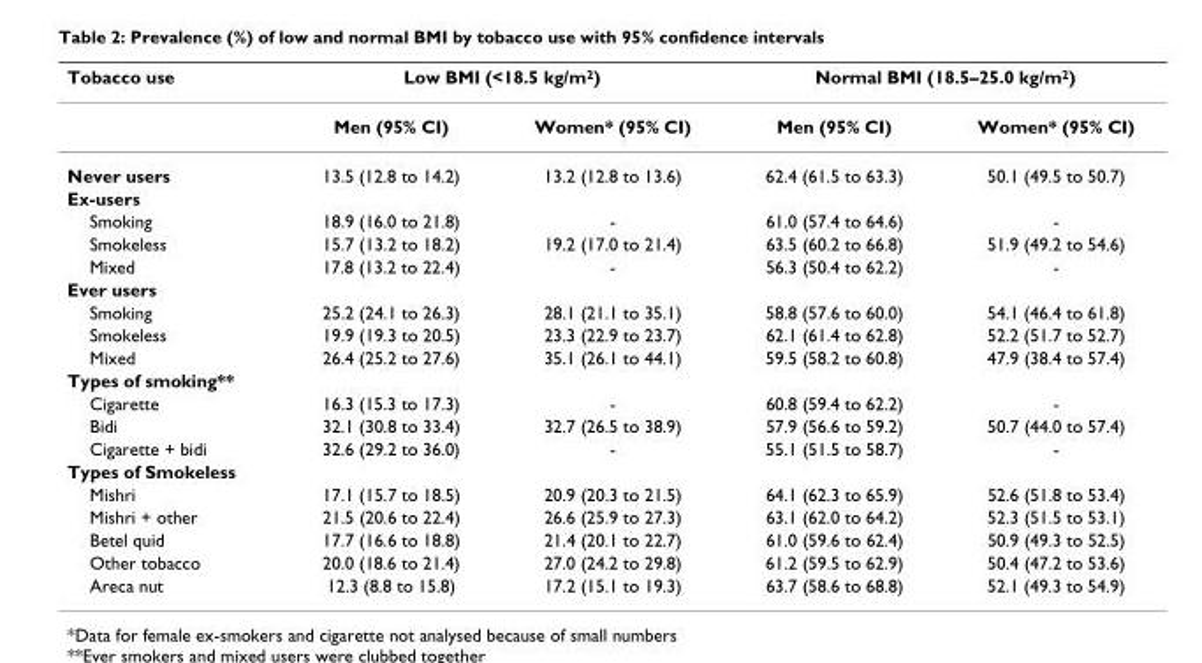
<table><thead><tr><td rowspan="2">Tobacco use</td><td colspan="2">Low BMI (&lt;18.5 kg/m2)</td><td colspan="2">Normal BMI (18.5–25.0 kg/m2)</td></tr><tr><td>Men (95% CI)</td><td>Women* (95% CI)</td><td>Men (95% CI)</td><td>Women* (95% CI)</td></tr></thead><tbody><tr><td>Never users</td><td>13.5 (12.8 to 14.2)</td><td>13.2 (12.8 to 13.6)</td><td>62.4 (61.5 to 63.3)</td><td>50.1 (49.5 to 50.7)</td></tr><tr><td colspan="5">Ex-users</td></tr><tr><td>Smoking</td><td>18.9 (16.0 to 21.8)</td><td>-</td><td>61.0 (57.4 to 64.6)</td><td>-</td></tr><tr><td>Smokeless</td><td>15.7 (13.2 to 18.2)</td><td>19.2 (17.0 to 21.4)</td><td>63.5 (60.2 to 66.8)</td><td>51.9 (49.2 to 54.6)</td></tr><tr><td>Mixed</td><td>17.8 (13.2 to 22.4)</td><td>-</td><td>56.3 (50.4 to 62.2)</td><td>-</td></tr><tr><td colspan="5">Ever users</td></tr><tr><td>Smoking</td><td>25.2 (24.1 to 26.3)</td><td>28.1 (21.1 to 35.1)</td><td>58.8 (57.6 to 60.0)</td><td>54.1 (46.4 to 61.8)</td></tr><tr><td>Smokeless</td><td>19.9 (19.3 to 20.5)</td><td>23.3 (22.9 to 23.7)</td><td>62.1 (61.4 to 62.8)</td><td>52.2 (51.7 to 52.7)</td></tr><tr><td>Mixed</td><td>26.4 (25.2 to 27.6)</td><td>35.1 (26.1 to 44.1)</td><td>59.5 (58.2 to 60.8)</td><td>47.9 (38.4 to 57.4)</td></tr><tr><td colspan="5">Types of smoking**</td></tr><tr><td>Cigarette</td><td>16.3 (15.3 to 17.3)</td><td>-</td><td>60.8 (59.4 to 62.2)</td><td>-</td></tr><tr><td>Bidi</td><td>32.1 (30.8 to 33.4)</td><td>32.7 (26.5 to 38.9)</td><td>57.9 (56.6 to 59.2)</td><td>50.7 (44.0 to 57.4)</td></tr><tr><td>Cigarette + bidi</td><td>32.6 (29.2 to 36.0)</td><td>-</td><td>55.1 (51.5 to 58.7)</td><td>-</td></tr><tr><td colspan="5">Types of Smokeless</td></tr><tr><td>Mishri</td><td>17.1 (15.7 to 18.5)</td><td>20.9 (20.3 to 21.5)</td><td>64.1 (62.3 to 65.9)</td><td>52.6 (51.8 to 53.4)</td></tr><tr><td>Mishri + other</td><td>21.5 (20.6 to 22.4)</td><td>26.6 (25.9 to 27.3)</td><td>63.1 (62.0 to 64.2)</td><td>52.3 (51.5 to 53.1)</td></tr><tr><td>Betel quid</td><td>17.7 (16.6 to 18.8)</td><td>21.4 (20.1 to 22.7)</td><td>61.0 (59.6 to 62.4)</td><td>50.9 (49.3 to 52.5)</td></tr><tr><td>Other tobacco</td><td>20.0 (18.6 to 21.4)</td><td>27.0 (24.2 to 29.8)</td><td>61.2 (59.5 to 62.9)</td><td>50.4 (47.2 to 53.6)</td></tr><tr><td>Areca nut</td><td>12.3 (8.8 to 15.8)</td><td>17.2 (15.1 to 19.3)</td><td>63.7 (58.6 to 68.8)</td><td>52.1 (49.3 to 54.9)</td></tr></tbody></table>